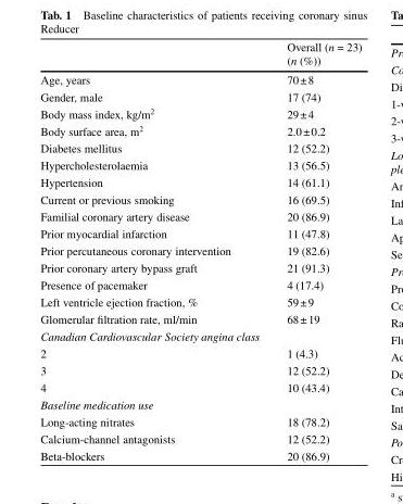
<table><thead><tr><td></td><td>Overall (n = 23) (n (%))</td></tr></thead><tbody><tr><td>Age, years</td><td>70±8</td></tr><tr><td>Gender, male</td><td>17 (74)</td></tr><tr><td>Body mass index, kg/m<sup>2</sup></td><td>29±4</td></tr><tr><td>Body surface area, m<sup>2</sup></td><td>2.0±0.2</td></tr><tr><td>Diabetes mellitus</td><td>12 (52.2)</td></tr><tr><td>Hypercholesterolaemia</td><td>13 (56.5)</td></tr><tr><td>Hypertension</td><td>14 (61.1)</td></tr><tr><td>Current or previous smoking</td><td>16 (69.5)</td></tr><tr><td>Familial coronary artery disease</td><td>20 (86.9)</td></tr><tr><td>Prior myocardial infarction</td><td>11 (47.8)</td></tr><tr><td>Prior percutaneous coronary intervention</td><td>19 (82.6)</td></tr><tr><td>Prior coronary artery bypass graft</td><td>21 (91.3)</td></tr><tr><td>Presence of pacemaker</td><td>4 (17.4)</td></tr><tr><td>Left ventricle ejection fraction, %</td><td>59±9</td></tr><tr><td>Glomerular filtration rate, ml/min</td><td>68±19</td></tr><tr><td colspan="2">Canadian Cardiovascular Society angina class</td></tr><tr><td>2</td><td>1 (4.3)</td></tr><tr><td>3</td><td>12 (52.2)</td></tr><tr><td>4</td><td>10 (43.4)</td></tr><tr><td colspan="2">Baseline medication use</td></tr><tr><td>Long-acting nitrates</td><td>18 (78.2)</td></tr><tr><td>Calcium-channel antagonists</td><td>12 (52.2)</td></tr><tr><td>Beta-blockers</td><td>20 (86.9)</td></tr></tbody></table>